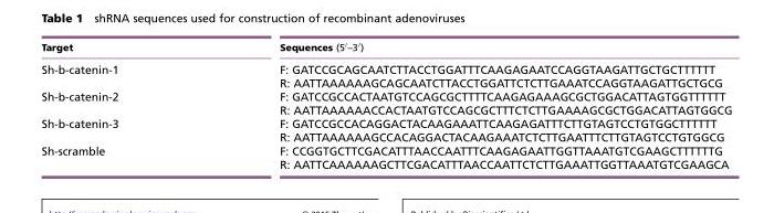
<table><thead><tr><td>Target</td><td>Sequences (5′–3′)</td></tr></thead><tbody><tr><td rowspan="2">Sh-b-catenin-1</td><td>F: GATCCGCAGCAATCTTACCTGGATTTCAAGAGAATCCAGGTAAGATTGCTGCTTTTTT</td></tr><tr><td>R: AATTAAAAAAGCAGCAATCTTACCTGGATTCTCTTGAAATCCAGGTAAGATTGCTGCG</td></tr><tr><td rowspan="2">Sh-b-catenin-2</td><td>F: GATCCGCCACTAATGTCCAGCGCTTTTCAAGAGAAAGCGCTGGACATTAGTGGTTTTTT</td></tr><tr><td>R: AATTAAAAAACCACTAATGTCCAGCGCTTTCTCTTGAAAAGCGCTGGACATTAGTGGCG</td></tr><tr><td rowspan="2">Sh-b-catenin-3</td><td>F: GATCCGCCACAGGACTACAAGAAATTCAAGAGATTTCTTGTAGTCCTGTGGCTTTTTT</td></tr><tr><td>R: AATTAAAAAAGCCACAGGACTACAAGAAATCTCTTGAATTTCTTGTAGTCCTGTGGCG</td></tr><tr><td rowspan="2">Sh-scramble</td><td>F: CCGGTGCTTCGACATTTAACCAATTTCAAGAGAATTGGTTAAATGTCGAAGCTTTTTTG</td></tr><tr><td>R: AATTCAAAAAAGCTTCGACATTTAACCAATTCTCTTGAAATTGGTTAAATGTCGAAGCA</td></tr></tbody></table>